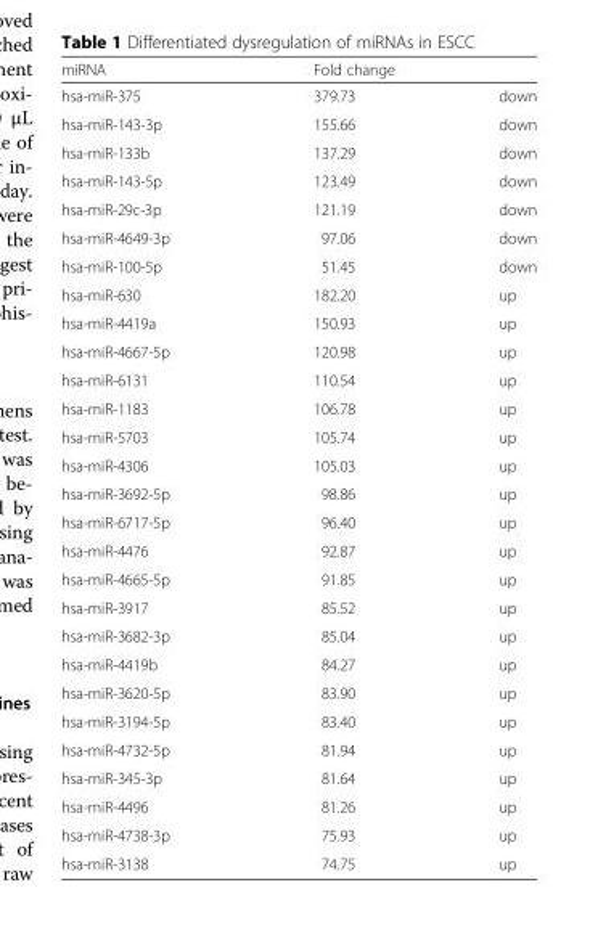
<table><thead><tr><td rowspan="2">miRNA hsa-miR-375</td><td colspan="2">Fold change</td></tr><tr><td>379.73</td><td>down</td></tr></thead><tbody><tr><td>hsa-miR-143-3p</td><td>155.66</td><td>down</td></tr><tr><td>hsa-miR-133b</td><td>137.29</td><td>down</td></tr><tr><td>hsa-miR-143-5p</td><td>123.49</td><td>down</td></tr><tr><td>hsa-miR-29c-3p</td><td>121.19</td><td>down</td></tr><tr><td>hsa-miR-4649-3p</td><td>97.06</td><td>down</td></tr><tr><td>hsa-miR-100-5p</td><td>51.45</td><td>down</td></tr><tr><td>hsa-miR-630</td><td>182.20</td><td>up</td></tr><tr><td>hsa-miR-4419a</td><td>150.93</td><td>up</td></tr><tr><td>hsa-miR-4667-5p</td><td>120.98</td><td>up</td></tr><tr><td>hsa-miR-6131</td><td>110.54</td><td>up</td></tr><tr><td>hsa-miR-1183</td><td>106.78</td><td>up</td></tr><tr><td>hsa-miR-5703</td><td>105.74</td><td>up</td></tr><tr><td>hsa-miR-4306</td><td>105.03</td><td>up</td></tr><tr><td>hsa-miR-3692-5p</td><td>98.86</td><td>up</td></tr><tr><td>hsa-miR-6717-5p</td><td>96.40</td><td>up</td></tr><tr><td>hsa-miR-4476</td><td>92.87</td><td>up</td></tr><tr><td>hsa-miR-4665-5p</td><td>91.85</td><td>up</td></tr><tr><td>hsa-miR-3917</td><td>85.52</td><td>up</td></tr><tr><td>hsa-miR-3682-3p</td><td>85.04</td><td>up</td></tr><tr><td>hsa-miR-4419b</td><td>84.27</td><td>up</td></tr><tr><td>hsa-miR-3620-5p</td><td>83.90</td><td>up</td></tr><tr><td>hsa-miR-3194-5p</td><td>83.40</td><td>up</td></tr><tr><td>hsa-miR-4732-5p</td><td>81.94</td><td>up</td></tr><tr><td>hsa-miR-345-3p</td><td>81.64</td><td>up</td></tr><tr><td>hsa-miR-4496</td><td>81.26</td><td>up</td></tr><tr><td>hsa-miR-4738-3p</td><td>75.93</td><td>up</td></tr><tr><td>hsa-miR-3138</td><td>74.75</td><td>up</td></tr></tbody></table>